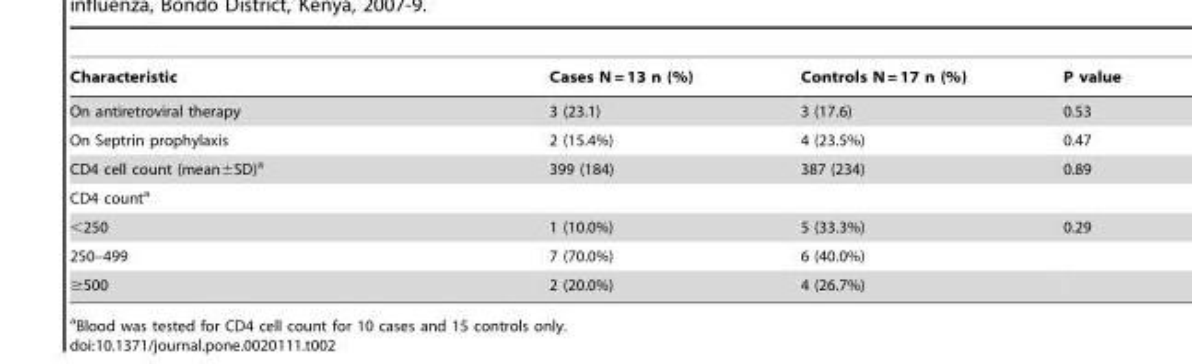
<table><thead><tr><td>Characteristic</td><td>Cases N = 13 n (%)</td><td>Controls N = 17 n (%)</td><td>P value</td></tr></thead><tbody><tr><td>On antiretroviral therapy</td><td>3 (23.1)</td><td>3 (17.6)</td><td>0.53</td></tr><tr><td>On Septrin prophylaxis</td><td>2 (15.4%)</td><td>4 (23.5%)</td><td>0.47</td></tr><tr><td>CD4 cell count (mean±SD)<sup>a</sup></td><td>399 (184)</td><td>387 (234)</td><td>0.89</td></tr><tr><td colspan="4">CD4 count<sup>a</sup></td></tr><tr><td>&lt;250</td><td>1 (10.0%)</td><td>5 (33.3%)</td><td>0.29</td></tr><tr><td>250–499</td><td>7 (70.0%)</td><td>6 (40.0%)</td><td></td></tr><tr><td>≥500</td><td>2 (20.0%)</td><td>4 (26.7%)</td><td></td></tr></tbody></table>